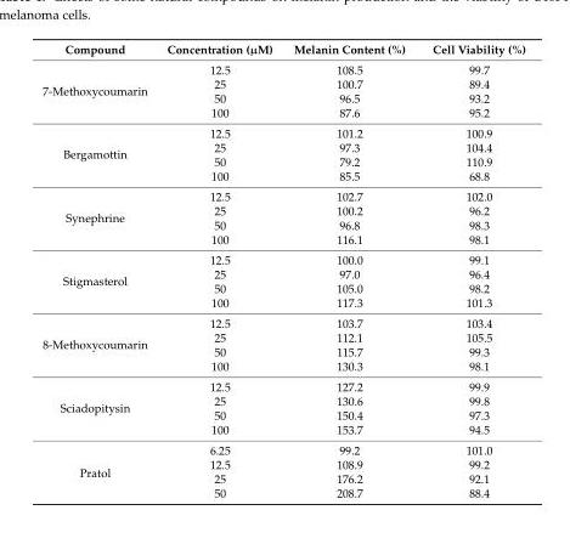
<table><thead><tr><td>Compound</td><td>Concentration (µM)</td><td>Melanin Content (%)</td><td>Cell Viability (%)</td></tr></thead><tbody><tr><td rowspan="4">7-Methoxycoumarin</td><td>12.5</td><td>108.5</td><td>99.7</td></tr><tr><td>25</td><td>100.7</td><td>89.4</td></tr><tr><td>50</td><td>96.5</td><td>93.2</td></tr><tr><td>100</td><td>87.6</td><td>95.2</td></tr><tr><td rowspan="4">Bergamottin</td><td>12.5</td><td>101.2</td><td>100.9</td></tr><tr><td>25</td><td>97.3</td><td>104.4</td></tr><tr><td>50</td><td>79.2</td><td>110.9</td></tr><tr><td>100</td><td>85.5</td><td>68.8</td></tr><tr><td rowspan="4">Synephrine</td><td>12.5</td><td>102.7</td><td>102.0</td></tr><tr><td>25</td><td>100.2</td><td>96.2</td></tr><tr><td>50</td><td>96.8</td><td>98.3</td></tr><tr><td>100</td><td>116.1</td><td>98.1</td></tr><tr><td rowspan="4">Stigmasterol</td><td>12.5</td><td>100.0</td><td>99.1</td></tr><tr><td>25</td><td>97.0</td><td>96.4</td></tr><tr><td>50</td><td>105.0</td><td>98.2</td></tr><tr><td>100</td><td>117.3</td><td>101.3</td></tr><tr><td rowspan="4">8-Methoxycoumarin</td><td>12.5</td><td>103.7</td><td>103.4</td></tr><tr><td>25</td><td>112.1</td><td>105.5</td></tr><tr><td>50</td><td>115.7</td><td>99.3</td></tr><tr><td>100</td><td>130.3</td><td>98.1</td></tr><tr><td rowspan="4">Sciadopitysin</td><td>12.5</td><td>127.2</td><td>99.9</td></tr><tr><td>25</td><td>130.6</td><td>99.8</td></tr><tr><td>50</td><td>150.4</td><td>97.3</td></tr><tr><td>100</td><td>153.7</td><td>94.5</td></tr><tr><td rowspan="4">Pratol</td><td>6.25</td><td>99.2</td><td>101.0</td></tr><tr><td>12.5</td><td>108.9</td><td>99.2</td></tr><tr><td>25</td><td>176.2</td><td>92.1</td></tr><tr><td>50</td><td>208.7</td><td>88.4</td></tr></tbody></table>